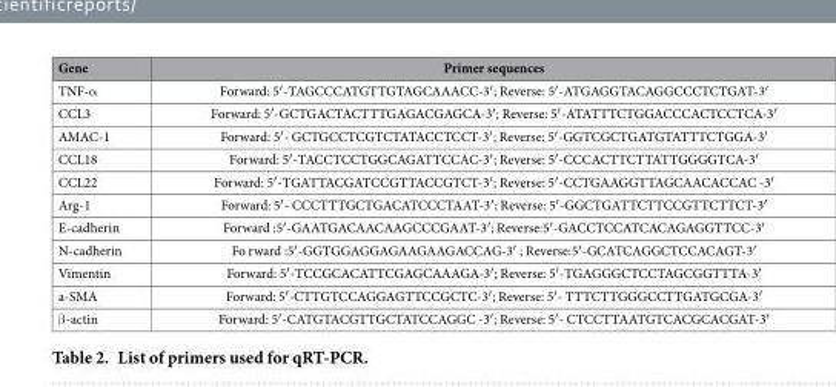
<table><thead><tr><td>Gene</td><td>Primer sequences</td></tr></thead><tbody><tr><td>TNF-α</td><td>Forward: 5′ -TAGCCCATGTTGTAGCAAACC-3′ ; Reverse: 5′ -ATGAGGTACAGGCCCTCTGAT-3′</td></tr><tr><td>CCL3</td><td>Forward: 5′ -GCTGACTACTTTGAGACGAGCA-3′ ; Reverse: 5′ -ATATTTCTGGACCCACTCCTCA-3′</td></tr><tr><td>AMAC-1</td><td>Forward: 5′ - GCTGCCTCGTCTATACCTCCT-3′ ; Reverse: 5′ -GGTCGCTGATGTATTTCTGGA-3′</td></tr><tr><td>CCL18</td><td>Forward: 5′ -TACCTCCTGGCAGATTCCAC-3′ ; Reverse: 5′ -CCCACTTCTTATTGGGGTCA-3′</td></tr><tr><td>CCL22</td><td>Forward: 5′ -TGATTACGATCCGTTACCGTCT-3′ ; Reverse: 5′ -CCTGAAGGTTAGCAACACCAC -3′</td></tr><tr><td>Arg-1</td><td>Forward: 5′ - CCCTTTGCTGACATCCCTAAT-3′ ; Reverse: 5′ -GGCTGATTCTTCCGTTCTTCT-3′</td></tr><tr><td>E-cadherin</td><td>Forward :5′ -GAATGACAACAAGCCCGAAT-3′ ; Reverse:5′ -GACCTCCATCACAGAGGTTCC-3′</td></tr><tr><td>N-cadherin</td><td>Fo rward :5′ -GGTGGAGGAGAAGAAGACCAG-3′ ; Reverse:5′ -GCATCAGGCTCCACAGT-3′</td></tr><tr><td>Vimentin</td><td>Forward: 5′ -TCCGCACATTCGAGCAAAGA-3′ ; Reverse: 5′ -TGAGGGCTCCTAGCGGTTTA-3′</td></tr><tr><td>a-SMA</td><td>Forward: 5′ -CTTGTCCAGGAGTTCCGCTC-3′ ; Reverse: 5′ - TTTCTTGGGCCTTGATGCGA-3′</td></tr><tr><td>β -actin</td><td>Forward: 5′ -CATGTACGTTGCTATCCAGGC -3′ ; Reverse: 5′ - CTCCTTAATGTCACGCACGAT-3′</td></tr></tbody></table>